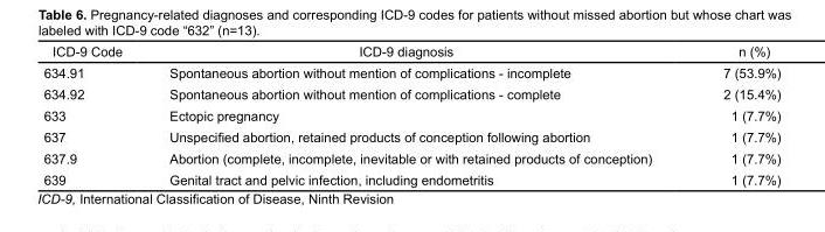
<table><thead><tr><td>ICD-9 Code</td><td>ICD-9 diagnosis</td><td>n (%)</td></tr></thead><tbody><tr><td>634.91</td><td>Spontaneous abortion without mention of complications - incomplete</td><td>7 (53.9%)</td></tr><tr><td>634.92</td><td>Spontaneous abortion without mention of complications - complete</td><td>2 (15.4%)</td></tr><tr><td>633</td><td>Ectopic pregnancy</td><td>1 (7.7%)</td></tr><tr><td>637</td><td>Unspecified abortion, retained products of conception following abortion</td><td>1 (7.7%)</td></tr><tr><td>637.9</td><td>Abortion (complete, incomplete, inevitable or with retained products of conception)</td><td>1 (7.7%)</td></tr><tr><td>639</td><td>Genital tract and pelvic infection, including endometritis</td><td>1 (7.7%)</td></tr></tbody></table>